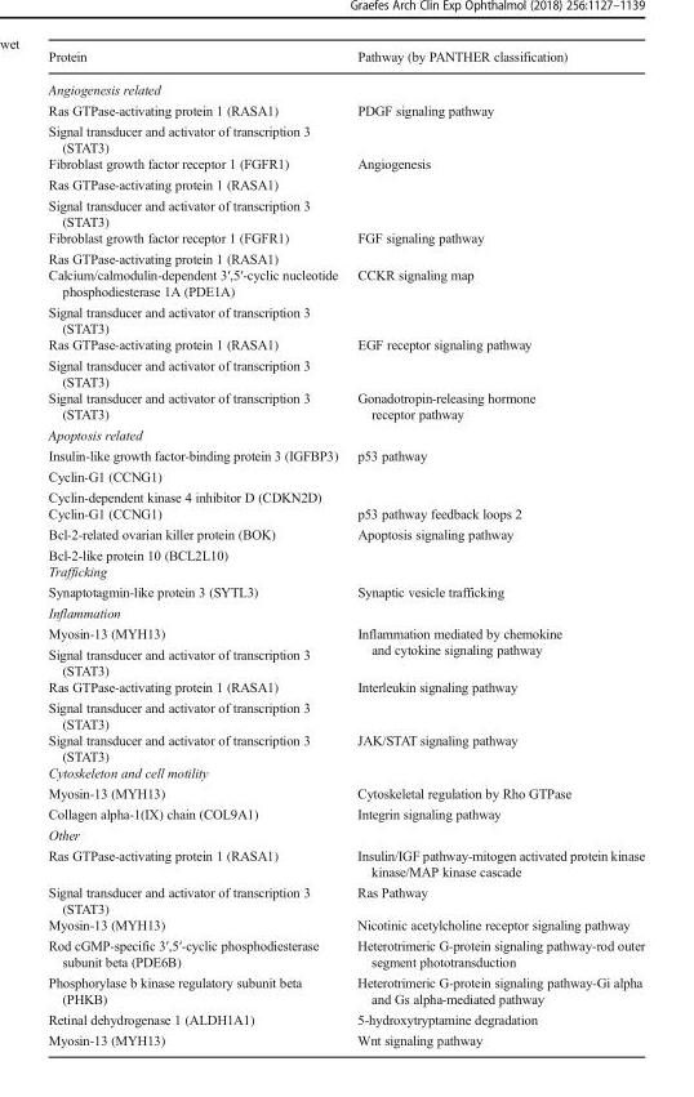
<table><thead><tr><td>Protein</td><td>Pathway (by PANTHER classification)</td></tr></thead><tbody><tr><td colspan="2">Angiogenesis related</td></tr><tr><td>Ras GTPase-activating protein 1 (RASA1) Signal transducer and activator of transcription 3 (STAT3)</td><td>PDGF signaling pathway</td></tr><tr><td>Fibroblast growth factor receptor 1 (FGFR1) Ras GTPase-activating protein 1 (RASA1) Signal transducer and activator of transcription 3 (STAT3)</td><td>Angiogenesis</td></tr><tr><td>Fibroblast growth factor receptor 1 (FGFR1) Ras GTPase-activating protein 1 (RASA1)</td><td>FGF signaling pathway</td></tr><tr><td>Calcium/calmodulin-dependent 3′,5′-cyclic nucleotide phosphodiesterase 1A (PDE1A) Signal transducer and activator of transcription 3 (STAT3)</td><td>CCKR signaling map</td></tr><tr><td>Ras GTPase-activating protein 1 (RASA1) Signal transducer and activator of transcription 3 (STAT3)</td><td>EGF receptor signaling pathway</td></tr><tr><td>Signal transducer and activator of transcription 3 (STAT3)</td><td>Gonadotropin-releasing hormone receptor pathway</td></tr><tr><td colspan="2">Apoptosis related</td></tr><tr><td>Insulin-like growth factor-binding protein 3 (IGFBP3) Cyclin-G1 (CCNG1) Cyclin-dependent kinase 4 inhibitor D (CDKN2D)</td><td>p53 pathway</td></tr><tr><td>Cyclin-G1 (CCNG1)</td><td>p53 pathway feedback loops 2</td></tr><tr><td>Bcl-2-related ovarian killer protein (BOK) Bcl-2-like protein 10 (BCL2L10)</td><td>Apoptosis signaling pathway</td></tr><tr><td colspan="2">Trafficking</td></tr><tr><td>Synaptotagmin-like protein 3 (SYTL3)</td><td>Synaptic vesicle trafficking</td></tr><tr><td colspan="2">Inflammation</td></tr><tr><td>Myosin-13 (MYH13) Signal transducer and activator of transcription 3 (STAT3)</td><td>Inflammation mediated by chemokine and cytokine signaling pathway</td></tr><tr><td>Ras GTPase-activating protein 1 (RASA1) Signal transducer and activator of transcription 3 (STAT3)</td><td>Interleukin signaling pathway</td></tr><tr><td>Signal transducer and activator of transcription 3 (STAT3)</td><td>JAK/STAT signaling pathway</td></tr><tr><td colspan="2">Cytoskeleton and cell motility</td></tr><tr><td>Myosin-13 (MYH13)</td><td>Cytoskeletal regulation by Rho GTPase</td></tr><tr><td>Collagen alpha-1(IX) chain (COL9A1)</td><td>Integrin signaling pathway</td></tr><tr><td colspan="2">Other</td></tr><tr><td>Ras GTPase-activating protein 1 (RASA1)</td><td>Insulin/IGF pathway-mitogen activated protein kinase kinase/MAP kinase cascade</td></tr><tr><td>Signal transducer and activator of transcription 3 (STAT3)</td><td>Ras Pathway</td></tr><tr><td>Myosin-13 (MYH13)</td><td>Nicotinic acetylcholine receptor signaling pathway</td></tr><tr><td>Rod cGMP-specific 3′,5′-cyclic phosphodiesterase subunit beta (PDE6B)</td><td>Heterotrimeric G-protein signaling pathway-rod outer segment phototransduction</td></tr><tr><td>Phosphorylase b kinase regulatory subunit beta (PHKB)</td><td>Heterotrimeric G-protein signaling pathway-Gi alpha and Gs alpha-mediated pathway</td></tr><tr><td>Retinal dehydrogenase 1 (ALDH1A1)</td><td>5-hydroxytryptamine degradation</td></tr><tr><td>Myosin-13 (MYH13)</td><td>Wnt signaling pathway</td></tr></tbody></table>